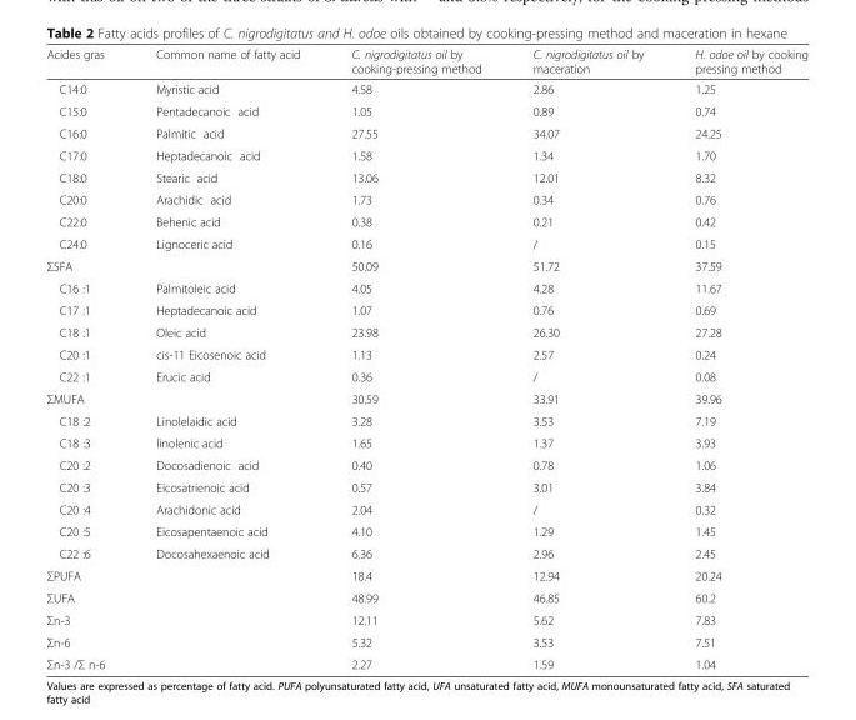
<table><thead><tr><td>Acides gras</td><td>Common name of fatty acid</td><td>C. nigrodigitatus oil by cooking-pressing method</td><td>C. nigrodigitatus oil by maceration</td><td>H. odoe oil by cooking pressing method</td></tr></thead><tbody><tr><td>C14:0</td><td>Myristic acid</td><td>4.58</td><td>2.86</td><td>1.25</td></tr><tr><td>C15:0</td><td>Pentadecanoic acid</td><td>1.05</td><td>0.89</td><td>0.74</td></tr><tr><td>C16:0</td><td>Palmitic acid</td><td>27.55</td><td>34.07</td><td>24.25</td></tr><tr><td>C17:0</td><td>Heptadecanoic acid</td><td>1.58</td><td>1.34</td><td>1.70</td></tr><tr><td>C18:0</td><td>Stearic acid</td><td>13.06</td><td>12.01</td><td>8.32</td></tr><tr><td>C20:0</td><td>Arachidic acid</td><td>1.73</td><td>0.34</td><td>0.76</td></tr><tr><td>C22:0</td><td>Behenic acid</td><td>0.38</td><td>0.21</td><td>0.42</td></tr><tr><td>C24:0</td><td>Lignoceric acid</td><td>0.16</td><td>/</td><td>0.15</td></tr><tr><td>ΣSFA</td><td></td><td>50.09</td><td>51.72</td><td>37.59</td></tr><tr><td>C16 :1</td><td>Palmitoleic acid</td><td>4.05</td><td>4.28</td><td>11.67</td></tr><tr><td>C17 :1</td><td>Heptadecanoic acid</td><td>1.07</td><td>0.76</td><td>0.69</td></tr><tr><td>C18 :1</td><td>Oleic acid</td><td>23.98</td><td>26.30</td><td>27.28</td></tr><tr><td>C20 :1</td><td>cis-11 Eicosenoic acid</td><td>1.13</td><td>2.57</td><td>0.24</td></tr><tr><td>C22 :1</td><td>Erucic acid</td><td>0.36</td><td>/</td><td>0.08</td></tr><tr><td>ΣMUFA</td><td></td><td>30.59</td><td>33.91</td><td>39.96</td></tr><tr><td>C18 :2</td><td>Linolelaidic acid</td><td>3.28</td><td>3.53</td><td>7.19</td></tr><tr><td>C18 :3</td><td>linolenic acid</td><td>1.65</td><td>1.37</td><td>3.93</td></tr><tr><td>C20 :2</td><td>Docosadienoic acid</td><td>0.40</td><td>0.78</td><td>1.06</td></tr><tr><td>C20 :3</td><td>Eicosatrienoic acid</td><td>0.57</td><td>3.01</td><td>3.84</td></tr><tr><td>C20 :4</td><td>Arachidonic acid</td><td>2.04</td><td>/</td><td>0.32</td></tr><tr><td>C20 :5</td><td>Eicosapentaenoic acid</td><td>4.10</td><td>1.29</td><td>1.45</td></tr><tr><td>C22 :6</td><td>Docosahexaenoic acid</td><td>6.36</td><td>2.96</td><td>2.45</td></tr><tr><td>ΣPUFA</td><td></td><td>18.4</td><td>12.94</td><td>20.24</td></tr><tr><td>ΣUFA</td><td></td><td>48.99</td><td>46.85</td><td>60.2</td></tr><tr><td>Σn-3</td><td></td><td>12.11</td><td>5.62</td><td>7.83</td></tr><tr><td>Σn-6</td><td></td><td>5.32</td><td>3.53</td><td>7.51</td></tr><tr><td>Σn-3 /Σ n-6</td><td></td><td>2.27</td><td>1.59</td><td>1.04</td></tr></tbody></table>